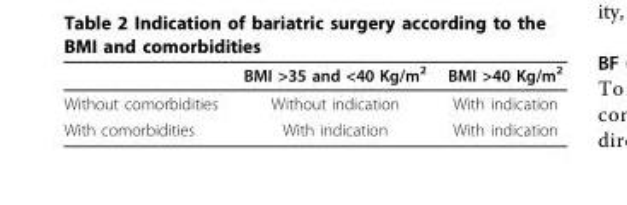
<table><thead><tr><td></td><td>BMI &gt;35 and &lt;40 Kg/m<sup>2</sup></td><td>BMI &gt;40 Kg/m<sup>2</sup></td></tr></thead><tbody><tr><td>Without comorbidities</td><td>Without indication</td><td>With indication</td></tr><tr><td>With comorbidities</td><td>With indication</td><td>With indication</td></tr></tbody></table>